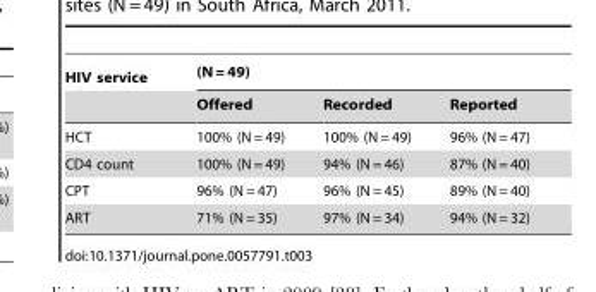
<table><thead><tr><td rowspan="2">HIV service</td><td colspan="3">(N = 49)</td></tr><tr><td>Offered</td><td>Recorded</td><td>Reported</td></tr></thead><tbody><tr><td>HCT</td><td>100% (N = 49)</td><td>100% (N = 49)</td><td>96% (N = 47)</td></tr><tr><td>CD4 count</td><td>100% (N = 49)</td><td>94% (N = 46)</td><td>87% (N = 40)</td></tr><tr><td>CPT</td><td>96% (N = 47)</td><td>96% (N = 45)</td><td>89% (N = 40)</td></tr><tr><td>ART</td><td>71% (N = 35)</td><td>97% (N = 34)</td><td>94% (N = 32)</td></tr></tbody></table>